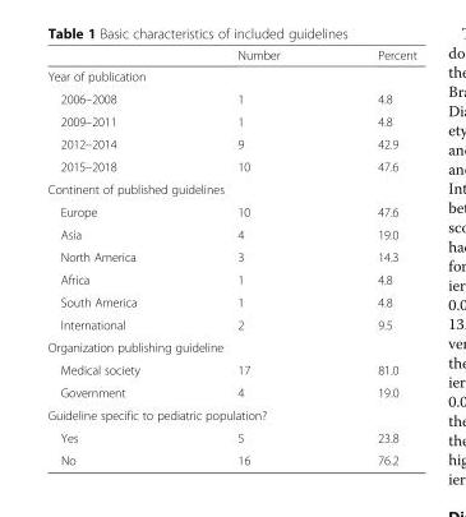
<table><thead><tr><td></td><td>Number</td><td>Percent</td></tr></thead><tbody><tr><td colspan="3">Year of publication</td></tr><tr><td>2006–2008</td><td>1</td><td>4.8</td></tr><tr><td>2009–2011</td><td>1</td><td>4.8</td></tr><tr><td>2012–2014</td><td>9</td><td>42.9</td></tr><tr><td>2015–2018</td><td>10</td><td>47.6</td></tr><tr><td colspan="3">Continent of published guidelines</td></tr><tr><td>Europe</td><td>10</td><td>47.6</td></tr><tr><td>Asia</td><td>4</td><td>19.0</td></tr><tr><td>North America</td><td>3</td><td>14.3</td></tr><tr><td>Africa</td><td>1</td><td>4.8</td></tr><tr><td>South America</td><td>1</td><td>4.8</td></tr><tr><td>International</td><td>2</td><td>9.5</td></tr><tr><td colspan="3">Organization publishing guideline</td></tr><tr><td>Medical society</td><td>17</td><td>81.0</td></tr><tr><td>Government</td><td>4</td><td>19.0</td></tr><tr><td colspan="3">Guideline specific to pediatric population?</td></tr><tr><td>Yes</td><td>5</td><td>23.8</td></tr><tr><td>No</td><td>16</td><td>76.2</td></tr></tbody></table>